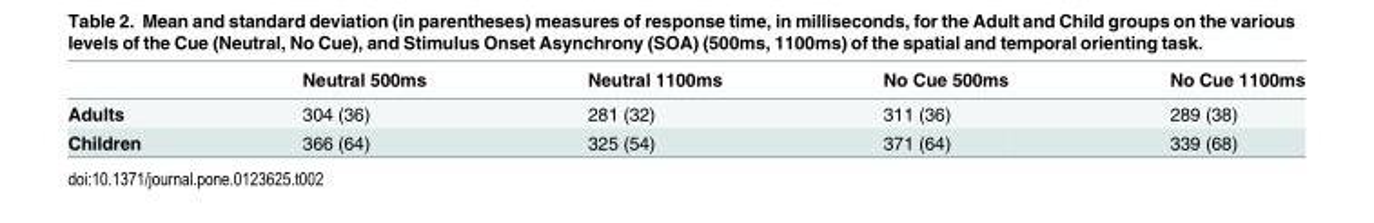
<table><thead><tr><td></td><td>Neutral 500ms</td><td>Neutral 1100ms</td><td>No Cue 500ms</td><td>No Cue 1100ms</td></tr></thead><tbody><tr><td>Adults</td><td>304 (36)</td><td>281 (32)</td><td>311 (36)</td><td>289 (38)</td></tr><tr><td>Children</td><td>366 (64)</td><td>325 (54)</td><td>371 (64)</td><td>339 (68)</td></tr></tbody></table>